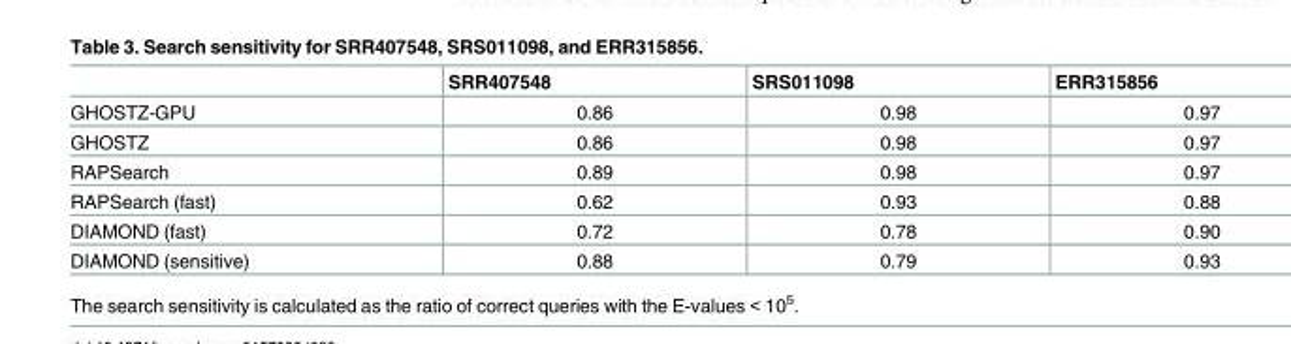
<table><thead><tr><td></td><td>SRR407548</td><td>SRS011098</td><td>ERR315856</td></tr></thead><tbody><tr><td>GHOSTZ-GPU</td><td>0.86</td><td>0.98</td><td>0.97</td></tr><tr><td>GHOSTZ</td><td>0.86</td><td>0.98</td><td>0.97</td></tr><tr><td>RAPSearch</td><td>0.89</td><td>0.98</td><td>0.97</td></tr><tr><td>RAPSearch (fast)</td><td>0.62</td><td>0.93</td><td>0.88</td></tr><tr><td>DIAMOND (fast)</td><td>0.72</td><td>0.78</td><td>0.90</td></tr><tr><td>DIAMOND (sensitive)</td><td>0.88</td><td>0.79</td><td>0.93</td></tr></tbody></table>